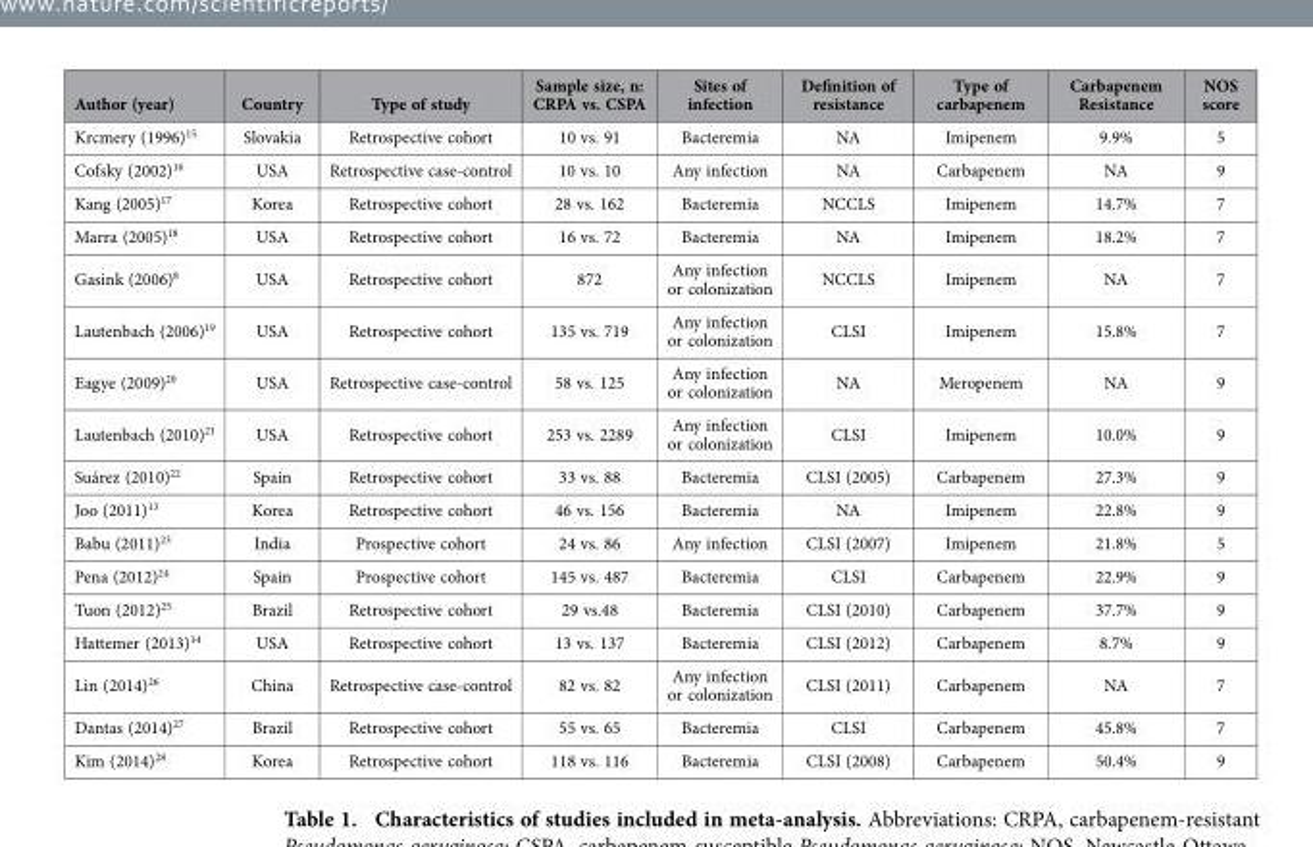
<table><thead><tr><td>Author (year)</td><td>Country</td><td>Type of study</td><td>Sample size, n: CRPA vs. CSPA</td><td>Sites of infection</td><td>Definition of resistance</td><td>Type of carbapenem</td><td>Carbapenem Resistance</td><td>NOS score</td></tr></thead><tbody><tr><td>Krcmery (1996)<sup>15</sup></td><td>Slovakia</td><td>Retrospective cohort</td><td>10 vs. 91</td><td>Bacteremia</td><td>NA</td><td>Imipenem</td><td>9.9%</td><td>5</td></tr><tr><td>Cofsky (2002)<sup>16</sup></td><td>USA</td><td>Retrospective case-control</td><td>10 vs. 10</td><td>Any infection</td><td>NA</td><td>Carbapenem</td><td>NA</td><td>9</td></tr><tr><td>Kang (2005)<sup>17</sup></td><td>Korea</td><td>Retrospective cohort</td><td>28 vs. 162</td><td>Bacteremia</td><td>NCCLS</td><td>Imipenem</td><td>14.7%</td><td>7</td></tr><tr><td>Marra (2005)<sup>18</sup></td><td>USA</td><td>Retrospective cohort</td><td>16 vs. 72</td><td>Bacteremia</td><td>NA</td><td>Imipenem</td><td>18.2%</td><td>7</td></tr><tr><td>Gasink (2006)<sup>8</sup></td><td>USA</td><td>Retrospective cohort</td><td>872</td><td>Any infection or colonization</td><td>NCCLS</td><td>Imipenem</td><td>NA</td><td>7</td></tr><tr><td>Lautenbach (2006)<sup>19</sup></td><td>USA</td><td>Retrospective cohort</td><td>135 vs. 719</td><td>Any infection or colonization</td><td>CLSI</td><td>Imipenem</td><td>15.8%</td><td>7</td></tr><tr><td>Eagye (2009)<sup>20</sup></td><td>USA</td><td>Retrospective case-control</td><td>58 vs. 125</td><td>Any infection or colonization</td><td>NA</td><td>Meropenem</td><td>NA</td><td>9</td></tr><tr><td>Lautenbach (2010)<sup>21</sup></td><td>USA</td><td>Retrospective cohort</td><td>253 vs. 2289</td><td>Any infection or colonization</td><td>CLSI</td><td>Imipenem</td><td>10.0%</td><td>9</td></tr><tr><td>Suárez (2010)<sup>22</sup></td><td>Spain</td><td>Retrospective cohort</td><td>33 vs. 88</td><td>Bacteremia</td><td>CLSI (2005)</td><td>Carbapenem</td><td>27.3%</td><td>9</td></tr><tr><td>Joo (2011)<sup>13</sup></td><td>Korea</td><td>Retrospective cohort</td><td>46 vs. 156</td><td>Bacteremia</td><td>NA</td><td>Imipenem</td><td>22.8%</td><td>9</td></tr><tr><td>Babu (2011)<sup>23</sup></td><td>India</td><td>Prospective cohort</td><td>24 vs. 86</td><td>Any infection</td><td>CLSI (2007)</td><td>Imipenem</td><td>21.8%</td><td>5</td></tr><tr><td>Pena (2012)<sup>24</sup></td><td>Spain</td><td>Prospective cohort</td><td>145 vs. 487</td><td>Bacteremia</td><td>CLSI</td><td>Carbapenem</td><td>22.9%</td><td>9</td></tr><tr><td>Tuon (2012)<sup>25</sup></td><td>Brazil</td><td>Retrospective cohort</td><td>29 vs.48</td><td>Bacteremia</td><td>CLSI (2010)</td><td>Carbapenem</td><td>37.7%</td><td>9</td></tr><tr><td>Hattemer (2013)<sup>14</sup></td><td>USA</td><td>Retrospective cohort</td><td>13 vs. 137</td><td>Bacteremia</td><td>CLSI (2012)</td><td>Carbapenem</td><td>8.7%</td><td>9</td></tr><tr><td>Lin (2014)<sup>26</sup></td><td>China</td><td>Retrospective case-control</td><td>82 vs. 82</td><td>Any infection or colonization</td><td>CLSI (2011)</td><td>Carbapenem</td><td>NA</td><td>7</td></tr><tr><td>Dantas (2014)<sup>27</sup></td><td>Brazil</td><td>Retrospective cohort</td><td>55 vs. 65</td><td>Bacteremia</td><td>CLSI</td><td>Carbapenem</td><td>45.8%</td><td>7</td></tr><tr><td>Kim (2014)<sup>28</sup></td><td>Korea</td><td>Retrospective cohort</td><td>118 vs. 116</td><td>Bacteremia</td><td>CLSI (2008)</td><td>Carbapenem</td><td>50.4%</td><td>9</td></tr></tbody></table>